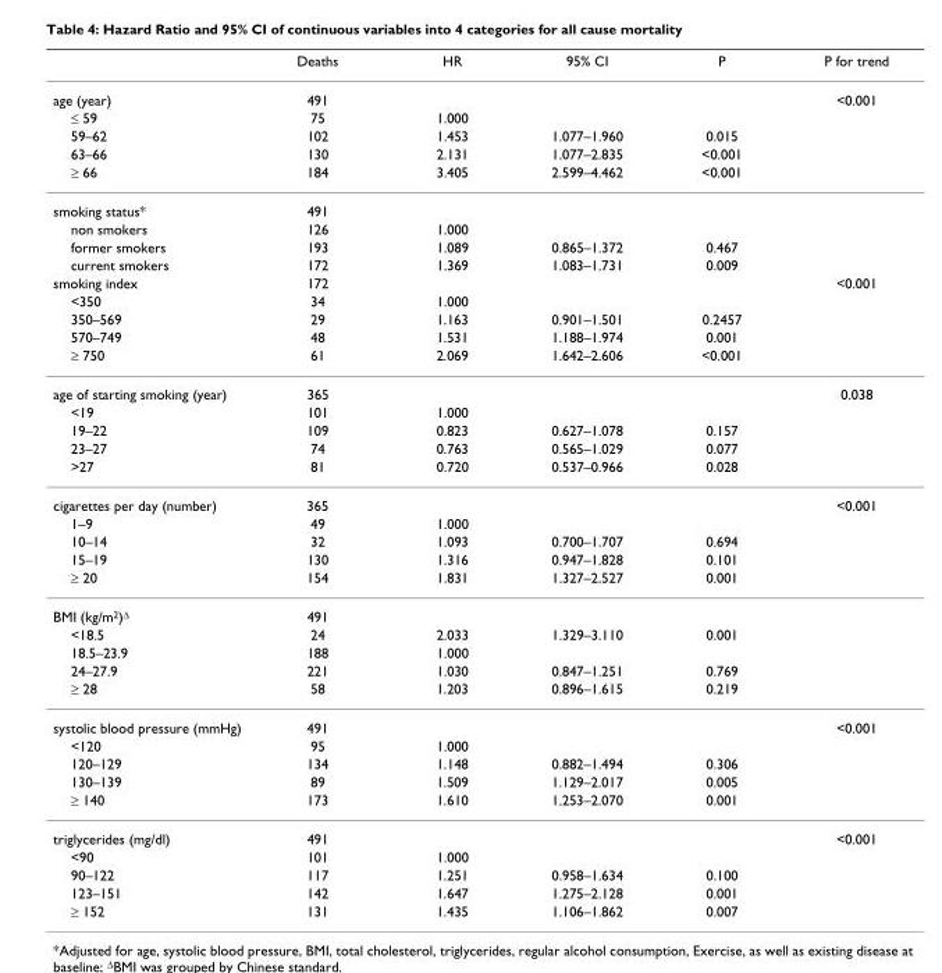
<table><thead><tr><td></td><td>Deaths</td><td>HR</td><td>95% CI</td><td>P</td><td>P for trend</td></tr></thead><tbody><tr><td>age (year)</td><td>491</td><td></td><td></td><td></td><td>&lt;0.001</td></tr><tr><td>≤ 59</td><td>75</td><td>1.000</td><td></td><td></td><td></td></tr><tr><td>59–62</td><td>102</td><td>1.453</td><td>1.077–1.960</td><td>0.015</td><td></td></tr><tr><td>63–66</td><td>130</td><td>2.131</td><td>1.077–2.835</td><td>&lt;0.001</td><td></td></tr><tr><td>≥ 66</td><td>184</td><td>3.405</td><td>2.599–4.462</td><td>&lt;0.001</td><td></td></tr><tr><td>smoking status*</td><td>491</td><td></td><td></td><td></td><td></td></tr><tr><td>non smokers</td><td>126</td><td>1.000</td><td></td><td></td><td></td></tr><tr><td>former smokers</td><td>193</td><td>1.089</td><td>0.865–1.372</td><td>0.467</td><td></td></tr><tr><td>current smokers</td><td>172</td><td>1.369</td><td>1.083–1.731</td><td>0.009</td><td></td></tr><tr><td>smoking index</td><td>172</td><td></td><td></td><td></td><td>&lt;0.001</td></tr><tr><td>&lt;350</td><td>34</td><td>1.000</td><td></td><td></td><td></td></tr><tr><td>350–569</td><td>29</td><td>1.163</td><td>0.901–1.501</td><td>0.2457</td><td></td></tr><tr><td>570–749</td><td>48</td><td>1.531</td><td>1.188–1.974</td><td>0.001</td><td></td></tr><tr><td>≥ 750</td><td>61</td><td>2.069</td><td>1.642–2.606</td><td>&lt;0.001</td><td></td></tr><tr><td>age of starting smoking (year)</td><td>365</td><td></td><td></td><td></td><td>0.038</td></tr><tr><td>&lt;19</td><td>101</td><td>1.000</td><td></td><td></td><td></td></tr><tr><td>19–22</td><td>109</td><td>0.823</td><td>0.627–1.078</td><td>0.157</td><td></td></tr><tr><td>23–27</td><td>74</td><td>0.763</td><td>0.565–1.029</td><td>0.077</td><td></td></tr><tr><td>&gt;27</td><td>81</td><td>0.720</td><td>0.537–0.966</td><td>0.028</td><td></td></tr><tr><td>cigarettes per day (number)</td><td>365</td><td></td><td></td><td></td><td>&lt;0.001</td></tr><tr><td>1–9</td><td>49</td><td>1.000</td><td></td><td></td><td></td></tr><tr><td>10–14</td><td>32</td><td>1.093</td><td>0.700–1.707</td><td>0.694</td><td></td></tr><tr><td>15–19</td><td>130</td><td>1.316</td><td>0.947–1.828</td><td>0.101</td><td></td></tr><tr><td>≥ 20</td><td>154</td><td>1.831</td><td>1.327–2.527</td><td>0.001</td><td></td></tr><tr><td>BMI (kg/m<sup>2</sup>)<sup>Δ</sup></td><td>491</td><td></td><td></td><td></td><td></td></tr><tr><td>&lt;18.5</td><td>24</td><td>2.033</td><td>1.329–3.110</td><td>0.001</td><td></td></tr><tr><td>18.5–23.9</td><td>188</td><td>1.000</td><td></td><td></td><td></td></tr><tr><td>24–27.9</td><td>221</td><td>1.030</td><td>0.847–1.251</td><td>0.769</td><td></td></tr><tr><td>≥ 28</td><td>58</td><td>1.203</td><td>0.896–1.615</td><td>0.219</td><td></td></tr><tr><td>systolic blood pressure (mmHg)</td><td>491</td><td></td><td></td><td></td><td>&lt;0.001</td></tr><tr><td>&lt;120</td><td>95</td><td>1.000</td><td></td><td></td><td></td></tr><tr><td>120–129</td><td>134</td><td>1.148</td><td>0.882–1.494</td><td>0.306</td><td></td></tr><tr><td>130–139</td><td>89</td><td>1.509</td><td>1.129–2.017</td><td>0.005</td><td></td></tr><tr><td>≥ 140</td><td>173</td><td>1.610</td><td>1.253–2.070</td><td>0.001</td><td></td></tr><tr><td>triglycerides (mg/dl)</td><td>491</td><td></td><td></td><td></td><td>&lt;0.001</td></tr><tr><td>&lt;90</td><td>101</td><td>1.000</td><td></td><td></td><td></td></tr><tr><td>90–122</td><td>117</td><td>1.251</td><td>0.958–1.634</td><td>0.100</td><td></td></tr><tr><td>123–151</td><td>142</td><td>1.647</td><td>1.275–2.128</td><td>0.001</td><td></td></tr><tr><td>≥ 152</td><td>131</td><td>1.435</td><td>1.106–1.862</td><td>0.007</td><td></td></tr></tbody></table>